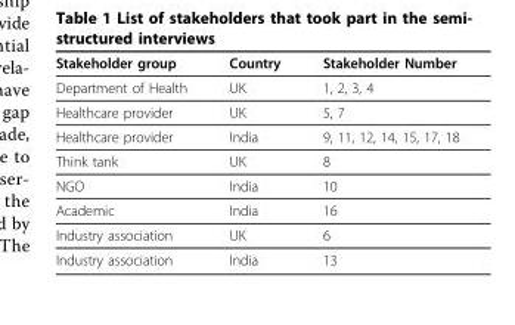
<table><thead><tr><td>Stakeholder group</td><td>Country</td><td>Stakeholder Number</td></tr></thead><tbody><tr><td>Department of Health</td><td>UK</td><td>1, 2, 3, 4</td></tr><tr><td>Healthcare provider</td><td>UK</td><td>5, 7</td></tr><tr><td>Healthcare provider</td><td>India</td><td>9, 11, 12, 14, 15, 17, 18</td></tr><tr><td>Think tank</td><td>UK</td><td>8</td></tr><tr><td>NGO</td><td>India</td><td>10</td></tr><tr><td>Academic</td><td>India</td><td>16</td></tr><tr><td>Industry association</td><td>UK</td><td>6</td></tr><tr><td>Industry association</td><td>India</td><td>13</td></tr></tbody></table>